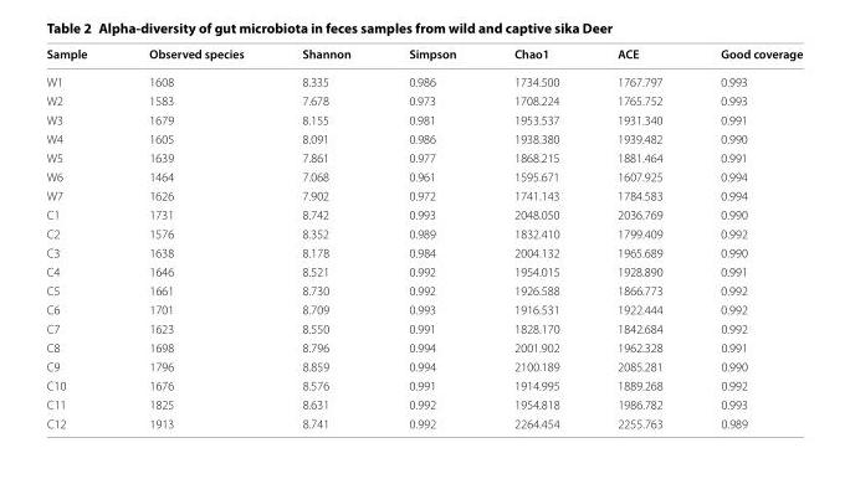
<table><thead><tr><td>Sample</td><td>Observed species</td><td>Shannon</td><td>Simpson</td><td>Chao1</td><td>ACE</td><td>Good coverage</td></tr></thead><tbody><tr><td>W1</td><td>1608</td><td>8.335</td><td>0.986</td><td>1734.500</td><td>1767.797</td><td>0.993</td></tr><tr><td>W2</td><td>1583</td><td>7.678</td><td>0.973</td><td>1708.224</td><td>1765.752</td><td>0.993</td></tr><tr><td>W3</td><td>1679</td><td>8.155</td><td>0.981</td><td>1953.537</td><td>1931.340</td><td>0.991</td></tr><tr><td>W4</td><td>1605</td><td>8.091</td><td>0.986</td><td>1938.380</td><td>1939.482</td><td>0.990</td></tr><tr><td>W5</td><td>1639</td><td>7.861</td><td>0.977</td><td>1868.215</td><td>1881.464</td><td>0.991</td></tr><tr><td>W6</td><td>1464</td><td>7.068</td><td>0.961</td><td>1595.671</td><td>1607.925</td><td>0.994</td></tr><tr><td>W7</td><td>1626</td><td>7.902</td><td>0.972</td><td>1741.143</td><td>1784.583</td><td>0.994</td></tr><tr><td>C1</td><td>1731</td><td>8.742</td><td>0.993</td><td>2048.050</td><td>2036.769</td><td>0.990</td></tr><tr><td>C2</td><td>1576</td><td>8.352</td><td>0.989</td><td>1832.410</td><td>1799.409</td><td>0.992</td></tr><tr><td>C3</td><td>1638</td><td>8.178</td><td>0.984</td><td>2004.132</td><td>1965.689</td><td>0.990</td></tr><tr><td>C4</td><td>1646</td><td>8.521</td><td>0.992</td><td>1954.015</td><td>1928.890</td><td>0.991</td></tr><tr><td>C5</td><td>1661</td><td>8.730</td><td>0.992</td><td>1926.588</td><td>1866.773</td><td>0.992</td></tr><tr><td>C6</td><td>1701</td><td>8.709</td><td>0.993</td><td>1916.531</td><td>1922.444</td><td>0.992</td></tr><tr><td>C7</td><td>1623</td><td>8.550</td><td>0.991</td><td>1828.170</td><td>1842.684</td><td>0.992</td></tr><tr><td>C8</td><td>1698</td><td>8.796</td><td>0.994</td><td>2001.902</td><td>1962.328</td><td>0.991</td></tr><tr><td>C9</td><td>1796</td><td>8.859</td><td>0.994</td><td>2100.189</td><td>2085.281</td><td>0.990</td></tr><tr><td>C10</td><td>1676</td><td>8.576</td><td>0.991</td><td>1914.995</td><td>1889.268</td><td>0.992</td></tr><tr><td>C11</td><td>1825</td><td>8.631</td><td>0.992</td><td>1954.818</td><td>1986.782</td><td>0.993</td></tr><tr><td>C12</td><td>1913</td><td>8.741</td><td>0.992</td><td>2264.454</td><td>2255.763</td><td>0.989</td></tr></tbody></table>